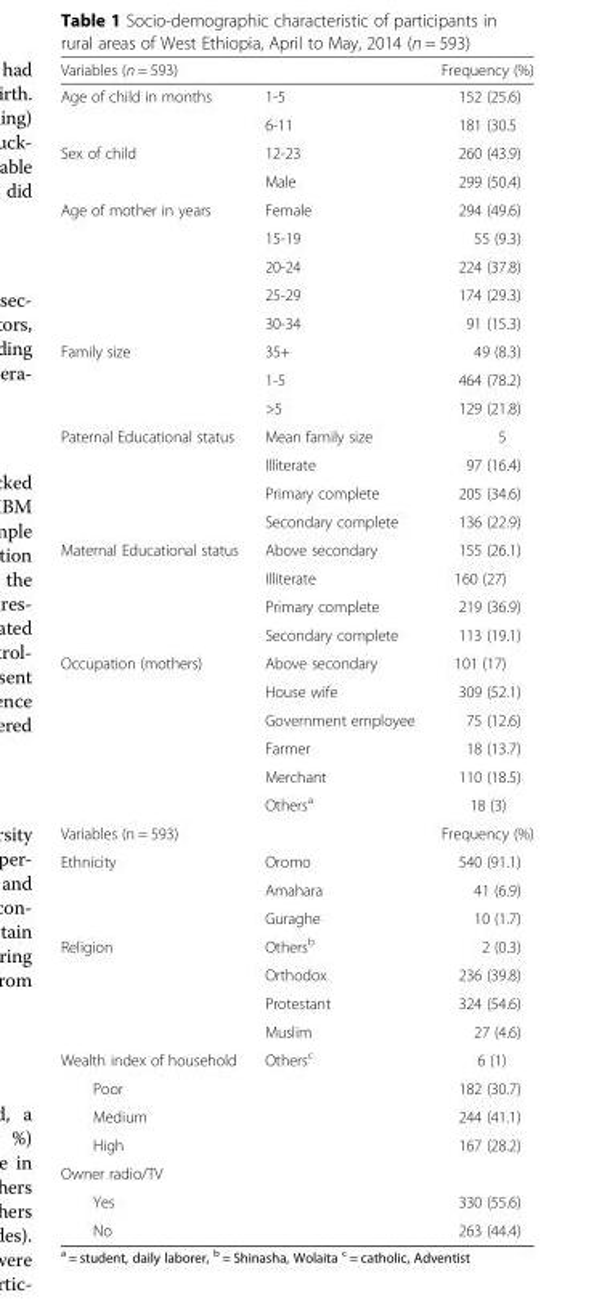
<table><thead><tr><td>Variables (n = 593)</td><td></td><td>Frequency (%)</td></tr></thead><tbody><tr><td rowspan="2">Age of child in months</td><td>1-5</td><td>152 (25.6)</td></tr><tr><td>6-11</td><td>181 (30.5</td></tr><tr><td rowspan="2">Sex of child</td><td>12-23</td><td>260 (43.9)</td></tr><tr><td>Male</td><td>299 (50.4)</td></tr><tr><td rowspan="5">Age of mother in years</td><td>Female</td><td>294 (49.6)</td></tr><tr><td>15-19</td><td>55 (9.3)</td></tr><tr><td>20-24</td><td>224 (37.8)</td></tr><tr><td>25-29</td><td>174 (29.3)</td></tr><tr><td>30-34</td><td>91 (15.3)</td></tr><tr><td rowspan="3">Family size</td><td>35+</td><td>49 (8.3)</td></tr><tr><td>1-5</td><td>464 (78.2)</td></tr><tr><td>&gt;5</td><td>129 (21.8)</td></tr><tr><td rowspan="4">Paternal Educational status</td><td>Mean family size</td><td>5</td></tr><tr><td>Illiterate</td><td>97 (16.4)</td></tr><tr><td>Primary complete</td><td>205 (34.6)</td></tr><tr><td>Secondary complete</td><td>136 (22.9)</td></tr><tr><td rowspan="4">Maternal Educational status</td><td>Above secondary</td><td>155 (26.1)</td></tr><tr><td>Illiterate</td><td>160 (27)</td></tr><tr><td>Primary complete</td><td>219 (36.9)</td></tr><tr><td>Secondary complete</td><td>113 (19.1)</td></tr><tr><td rowspan="6">Occupation (mothers)</td><td>Above secondary</td><td>101 (17)</td></tr><tr><td>House wife</td><td>309 (52.1)</td></tr><tr><td>Government employee</td><td>75 (12.6)</td></tr><tr><td>Farmer</td><td>18 (13.7)</td></tr><tr><td>Merchant</td><td>110 (18.5)</td></tr><tr><td>Others<sup>a</sup></td><td>18 (3)</td></tr><tr><td>Variables (n = 593)</td><td></td><td>Frequency (%)</td></tr><tr><td rowspan="3">Ethnicity</td><td>Oromo</td><td>540 (91.1)</td></tr><tr><td>Amahara</td><td>41 (6.9)</td></tr><tr><td>Guraghe</td><td>10 (1.7)</td></tr><tr><td rowspan="4">Religion</td><td>Others<sup>b</sup></td><td>2 (0.3)</td></tr><tr><td>Orthodox</td><td>236 (39.8)</td></tr><tr><td>Protestant</td><td>324 (54.6)</td></tr><tr><td>Muslim</td><td>27 (4.6)</td></tr><tr><td>Wealth index of household</td><td>Others<sup>c</sup></td><td>6 (1)</td></tr><tr><td>Poor</td><td></td><td>182 (30.7)</td></tr><tr><td>Medium</td><td></td><td>244 (41.1)</td></tr><tr><td>High</td><td></td><td>167 (28.2)</td></tr><tr><td colspan="3">Owner radio/TV</td></tr><tr><td>Yes</td><td></td><td>330 (55.6)</td></tr><tr><td>No</td><td></td><td>263 (44.4)</td></tr></tbody></table>